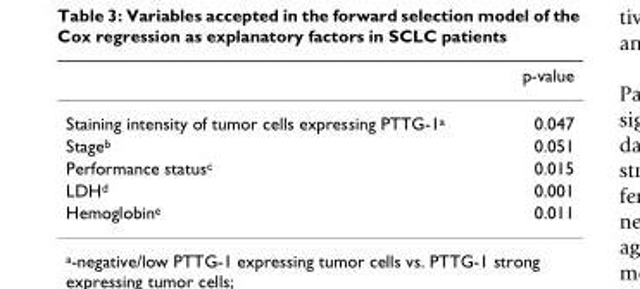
<table><thead><tr><td></td><td>p-value</td></tr></thead><tbody><tr><td>Staining intensity of tumor cells expressing PTTG-1<sup>a</sup></td><td>0.047</td></tr><tr><td>Stage<sup>b</sup></td><td>0.051</td></tr><tr><td>Performance status<sup>c</sup></td><td>0.015</td></tr><tr><td>LDH<sup>d</sup></td><td>0.001</td></tr><tr><td>Hemoglobin<sup>e</sup></td><td>0.011</td></tr></tbody></table>